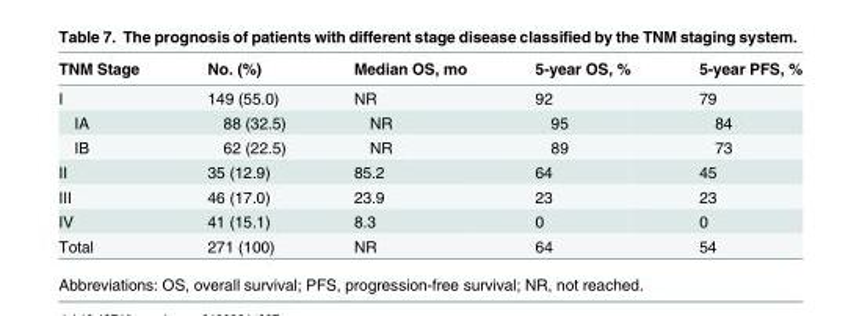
<table><thead><tr><td>TNM Stage</td><td>No. (%)</td><td>Median OS, mo</td><td>5-year OS, %</td><td>5-year PFS, %</td></tr></thead><tbody><tr><td>I</td><td>149 (55.0)</td><td>NR</td><td>92</td><td>79</td></tr><tr><td>IA</td><td>88 (32.5)</td><td>NR</td><td>95</td><td>84</td></tr><tr><td>IB</td><td>62 (22.5)</td><td>NR</td><td>89</td><td>73</td></tr><tr><td>II</td><td>35 (12.9)</td><td>85.2</td><td>64</td><td>45</td></tr><tr><td>III</td><td>46 (17.0)</td><td>23.9</td><td>23</td><td>23</td></tr><tr><td>IV</td><td>41 (15.1)</td><td>8.3</td><td>0</td><td>0</td></tr><tr><td>Total</td><td>271 (100)</td><td>NR</td><td>64</td><td>54</td></tr></tbody></table>